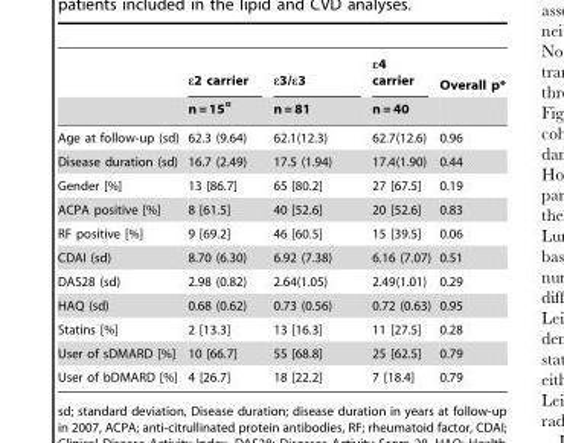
<table><thead><tr><td rowspan="2"></td><td rowspan="2">ε2 carrier n = 15¤</td><td rowspan="2">ε3/ε3 n = 81</td><td rowspan="2">ε4 carrier n = 40</td><td rowspan="2">Overall p*</td></tr><tr></tr></thead><tbody><tr><td>Age at follow-up (sd)</td><td>62.3 (9.64)</td><td>62.1(12.3)</td><td>62.7(12.6)</td><td>0.96</td></tr><tr><td>Disease duration (sd)</td><td>16.7 (2.49)</td><td>17.5 (1.94)</td><td>17.4(1.90)</td><td>0.44</td></tr><tr><td>Gender [%]</td><td>13 [86.7]</td><td>65 [80.2]</td><td>27 [67.5]</td><td>0.19</td></tr><tr><td>ACPA positive [%]</td><td>8 [61.5]</td><td>40 [52.6]</td><td>20 [52.6]</td><td>0.83</td></tr><tr><td>RF positive [%]</td><td>9 [69.2]</td><td>46 [60.5]</td><td>15 [39.5]</td><td>0.06</td></tr><tr><td>CDAI (sd)</td><td>8.70 (6.30)</td><td>6.92 (7.38)</td><td>6.16 (7.07)</td><td>0.51</td></tr><tr><td>DAS28 (sd)</td><td>2.98 (0.82)</td><td>2.64(1.05)</td><td>2.49(1.01)</td><td>0.29</td></tr><tr><td>HAQ (sd)</td><td>0.68 (0.62)</td><td>0.73 (0.56)</td><td>0.72 (0.63)</td><td>0.95</td></tr><tr><td>Statins [%]</td><td>2 [13.3]</td><td>13 [16.3]</td><td>11 [27.5]</td><td>0.28</td></tr><tr><td>User of sDMARD [%]</td><td>10 [66.7]</td><td>55 [68.8]</td><td>25 [62.5]</td><td>0.79</td></tr><tr><td>User of bDMARD [%]</td><td>4 [26.7]</td><td>18 [22.2]</td><td>7 [18.4]</td><td>0.79</td></tr></tbody></table>